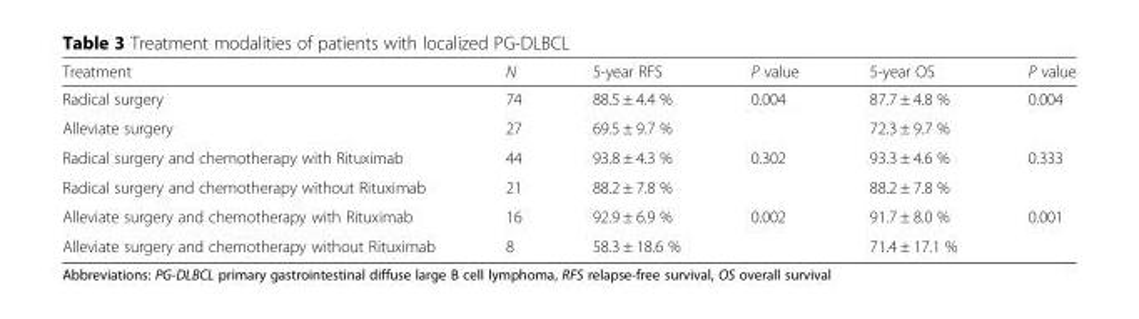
<table><thead><tr><td>Treatment</td><td>N</td><td>5-year RFS</td><td>P value</td><td>5-year OS</td><td>P value</td></tr></thead><tbody><tr><td>Radical surgery</td><td>74</td><td>88.5 ± 4.4 %</td><td rowspan="2">0.004</td><td>87.7 ± 4.8 %</td><td rowspan="2">0.004</td></tr><tr><td>Alleviate surgery</td><td>27</td><td>69.5 ± 9.7 %</td><td>72.3 ± 9.7 %</td></tr><tr><td>Radical surgery and chemotherapy with Rituximab</td><td>44</td><td>93.8 ± 4.3 %</td><td rowspan="2">0.302</td><td>93.3 ± 4.6 %</td><td rowspan="2">0.333</td></tr><tr><td>Radical surgery and chemotherapy without Rituximab</td><td>21</td><td>88.2 ± 7.8 %</td><td>88.2 ± 7.8 %</td></tr><tr><td>Alleviate surgery and chemotherapy with Rituximab</td><td>16</td><td>92.9 ± 6.9 %</td><td rowspan="2">0.002</td><td>91.7 ± 8.0 %</td><td rowspan="2">0.001</td></tr><tr><td>Alleviate surgery and chemotherapy without Rituximab</td><td>8</td><td>58.3 ± 18.6 %</td><td>71.4 ± 17.1 %</td></tr></tbody></table>